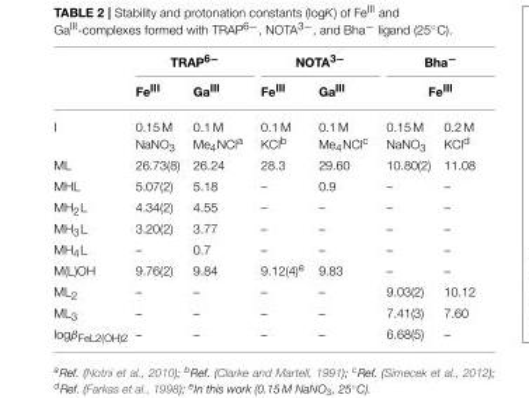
<table><thead><tr><td rowspan="3">I</td><td colspan="2">TRAP<sup>6−</sup></td><td colspan="2">NOTA<sup>3−</sup></td><td rowspan="2" colspan="2">Bha− FeIII</td></tr><tr><td rowspan="2">FeIII 0.15 M NaNO3</td><td rowspan="2">Ga<sup>III</sup> 0.1 M Me<sub>4</sub>NCl<sup>a</sup></td><td rowspan="2">FeIII 0.1 M KClb</td><td rowspan="2">Ga<sup>III</sup> 0.1 M Me<sub>4</sub>NCl<sup>c</sup></td></tr><tr><td>0.15 M NaNO<sub>3</sub></td><td>0.2 M KCl<sup>d</sup></td></tr></thead><tbody><tr><td>ML</td><td>26.73(8)</td><td>26.24</td><td>28.3</td><td>29.60</td><td>10.80(2)</td><td>11.08</td></tr><tr><td>MHL</td><td>5.07(2)</td><td>5.18</td><td>–</td><td>0.9</td><td>–</td><td>–</td></tr><tr><td>MH<sub>2</sub>L</td><td>4.34(2)</td><td>4.55</td><td>–</td><td>–</td><td>–</td><td>–</td></tr><tr><td>MH<sub>3</sub>L</td><td>3.20(2)</td><td>3.77</td><td>–</td><td>–</td><td>–</td><td>–</td></tr><tr><td>MH<sub>4</sub>L</td><td>–</td><td>0.7</td><td>–</td><td>–</td><td>–</td><td>–</td></tr><tr><td>M(L)OH</td><td>9.76(2)</td><td>9.84</td><td>9.12(4)<sup>e</sup></td><td>9.83</td><td>–</td><td>–</td></tr><tr><td>ML<sub>2</sub></td><td>–</td><td>–</td><td>–</td><td>–</td><td>9.03(2)</td><td>10.12</td></tr><tr><td>ML<sub>3</sub></td><td>–</td><td>–</td><td>–</td><td>–</td><td>7.41(3)</td><td>7.60</td></tr><tr><td>logβ<sub>FeL2(OH)2</sub></td><td>–</td><td>–</td><td>–</td><td>–</td><td>6.68(5)</td><td>–</td></tr></tbody></table>